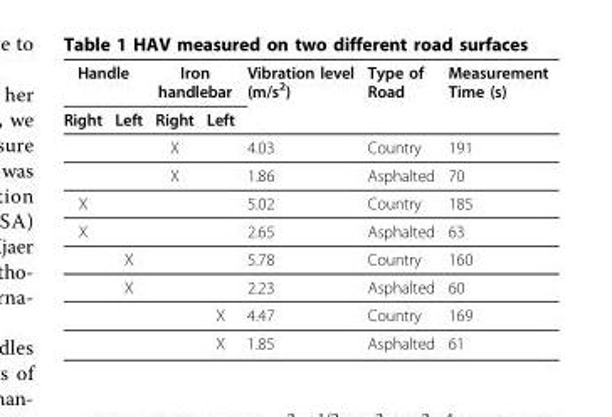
<table><thead><tr><td colspan="2">Handle</td><td colspan="2">Iron handlebar</td><td rowspan="2">Vibration level (m/s<sup>2</sup>)</td><td rowspan="2">Type of Road</td><td rowspan="2">Measurement Time (s)</td></tr><tr><td>Right</td><td>Left</td><td>Right</td><td>Left</td></tr></thead><tbody><tr><td></td><td></td><td>X</td><td></td><td>4.03</td><td>Country</td><td>191</td></tr><tr><td></td><td></td><td>X</td><td></td><td>1.86</td><td>Asphalted</td><td>70</td></tr><tr><td>X</td><td></td><td></td><td></td><td>5.02</td><td>Country</td><td>185</td></tr><tr><td rowspan="5">X</td><td></td><td></td><td></td><td>2.65</td><td>Asphalted</td><td>63</td></tr><tr><td>X</td><td></td><td></td><td>5.78</td><td>Country</td><td>160</td></tr><tr><td>X</td><td></td><td></td><td>2.23</td><td>Asphalted</td><td>60</td></tr><tr><td></td><td></td><td>X</td><td>4.47</td><td>Country</td><td>169</td></tr><tr><td></td><td></td><td>X</td><td>1.85</td><td>Asphalted</td><td>61</td></tr></tbody></table>